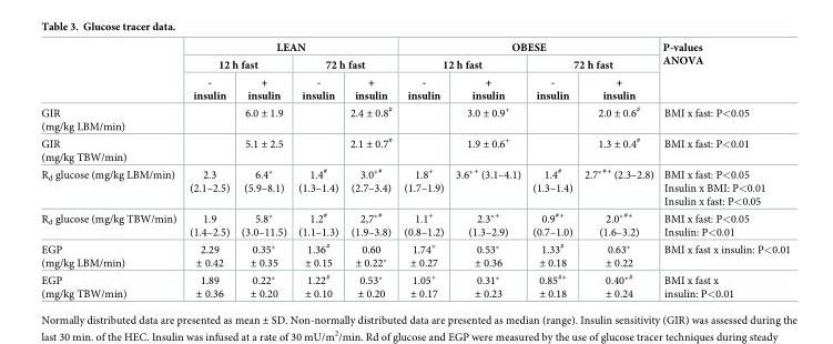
<table><thead><tr><td rowspan="3"></td><td colspan="4">LEAN</td><td colspan="4">OBESE</td><td rowspan="3">P-values ANOVA</td></tr><tr><td colspan="2">12 h fast</td><td colspan="2">72 h fast</td><td colspan="2">12 h fast</td><td colspan="2">72 h fast</td></tr><tr><td>- insulin</td><td>+ insulin</td><td>- insulin</td><td>+ insulin</td><td>- insulin</td><td>+ insulin</td><td>- insulin</td><td>+ insulin</td></tr></thead><tbody><tr><td>GIR (mg/kg LBM/min)</td><td></td><td>6.0 ± 1.9</td><td></td><td>2.4 ± 0.8<sup>#</sup></td><td></td><td>3.0 ± 0.9<sup>+</sup></td><td></td><td>2.0 ± 0.6<sup>#</sup></td><td>BMI x fast: P&lt;0.05</td></tr><tr><td>GIR (mg/kg TBW/min)</td><td></td><td>5.1 ± 2.5</td><td></td><td>2.1 ± 0.7<sup>#</sup></td><td></td><td>1.9 ± 0.6<sup>+</sup></td><td></td><td>1.3 ± 0.4<sup>#</sup></td><td>BMI x fast: P&lt;0.01</td></tr><tr><td>R<sub>d</sub> glucose (mg/kg LBM/min)</td><td>2.3 (2.1–2.5)</td><td>6.4* (5.9–8.1)</td><td>1.4<sup>#</sup> (1.3–1.4)</td><td>3.0*<sup>#</sup> (2.7–3.4)</td><td>1.8<sup>+</sup> (1.7–1.9)</td><td>3.6*<sup>+</sup> (3.1–4.1)</td><td>1.4<sup>#</sup> (1.3–1.4)</td><td>2.7*<sup>#+</sup> (2.3–2.8)</td><td>BMI x fast: P&lt;0.05 Insulin x BMI: P&lt;0.01 Insulin x fast: P&lt;0.05</td></tr><tr><td>R<sub>d</sub> glucose (mg/kg TBW/min)</td><td>1.9 (1.4–2.5)</td><td>5.8* (3.0–11.5)</td><td>1.2<sup>#</sup> (1.1–1.3)</td><td>2,7*<sup>#</sup> (1.9–3.8)</td><td>1.1<sup>+</sup> (0.8–1.2)</td><td>2.3*<sup>+</sup> (1.3–2.9)</td><td>0.9<sup>#+</sup> (0.7–1.0)</td><td>2.0*<sup>#+</sup> (1.6–3.2)</td><td>BMI x fast: P&lt;0.05 Insulin: P&lt;0.01</td></tr><tr><td>EGP (mg/kg LBM/min)</td><td>2.29 ± 0.42</td><td>0.35* ± 0.35</td><td>1.36<sup>#</sup> ± 0.15</td><td>0.60 ± 0.22*</td><td>1.74<sup>+</sup> ± 0.27</td><td>0.53* ± 0.36</td><td>1.33<sup>#</sup> ± 0.18</td><td>0.63* ± 0.22</td><td>BMI x fast x insulin: P&lt;0.01</td></tr><tr><td>EGP (mg/kg TBW/min)</td><td>1.89 ± 0.36</td><td>0.22* ± 0.20</td><td>1.22<sup>#</sup> ± 0.10</td><td>0.53* ± 0.20</td><td>1.05<sup>+</sup> ± 0.17</td><td>0.31* ± 0.23</td><td>0.85<sup>#+</sup> ± 0.18</td><td>0.40*<sup>#</sup> ± 0.24</td><td>BMI x fast x insulin: P&lt;0.01</td></tr></tbody></table>